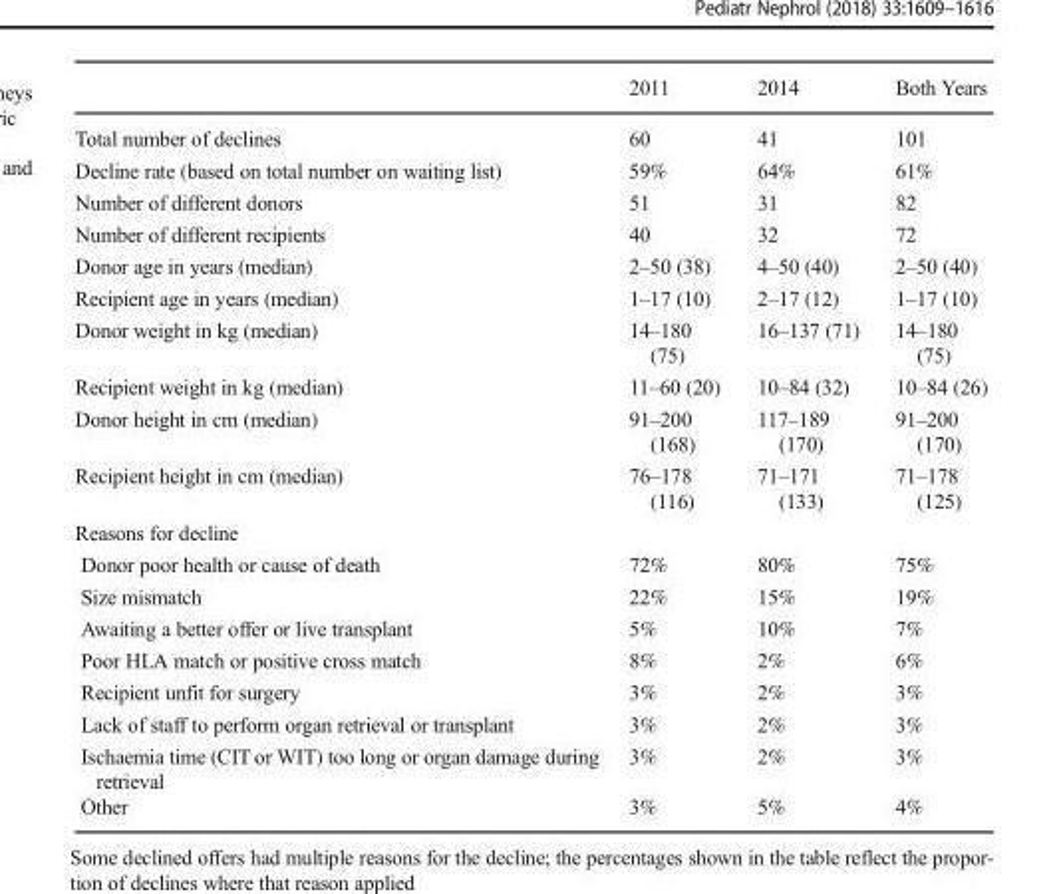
<table><thead><tr><td></td><td>2011</td><td>2014</td><td>Both Years</td></tr></thead><tbody><tr><td>Total number of declines</td><td>60</td><td>41</td><td>101</td></tr><tr><td>Decline rate (based on total number on waiting list)</td><td>59%</td><td>64%</td><td>61%</td></tr><tr><td>Number of different donors</td><td>51</td><td>31</td><td>82</td></tr><tr><td>Number of different recipients</td><td>40</td><td>32</td><td>72</td></tr><tr><td>Donor age in years (median)</td><td>2–50 (38)</td><td>4–50 (40)</td><td>2–50 (40)</td></tr><tr><td>Recipient age in years (median)</td><td>1–17 (10)</td><td>2–17 (12)</td><td>1–17 (10)</td></tr><tr><td>Donor weight in kg (median)</td><td>14–180 (75)</td><td>16–137 (71)</td><td>14–180 (75)</td></tr><tr><td>Recipient weight in kg (median)</td><td>11–60 (20)</td><td>10–84 (32)</td><td>10–84 (26)</td></tr><tr><td>Donor height in cm (median)</td><td>91–200 (168)</td><td>117–189 (170)</td><td>91–200 (170)</td></tr><tr><td>Recipient height in cm (median)</td><td>76–178 (116)</td><td>71–171 (133)</td><td>71–178 (125)</td></tr><tr><td colspan="4">Reasons for decline</td></tr><tr><td>Donor poor health or cause of death</td><td>72%</td><td>80%</td><td>75%</td></tr><tr><td>Size mismatch</td><td>22%</td><td>15%</td><td>19%</td></tr><tr><td>Awaiting a better offer or live transplant</td><td>5%</td><td>10%</td><td>7%</td></tr><tr><td>Poor HLA match or positive cross match</td><td>8%</td><td>2%</td><td>6%</td></tr><tr><td>Recipient unfit for surgery</td><td>3%</td><td>2%</td><td>3%</td></tr><tr><td>Lack of staff to perform organ retrieval or transplant</td><td>3%</td><td>2%</td><td>3%</td></tr><tr><td>Ischaemia time (CIT or WIT) too long or organ damage during retrieval</td><td>3%</td><td>2%</td><td>3%</td></tr><tr><td>Other</td><td>3%</td><td>5%</td><td>4%</td></tr></tbody></table>